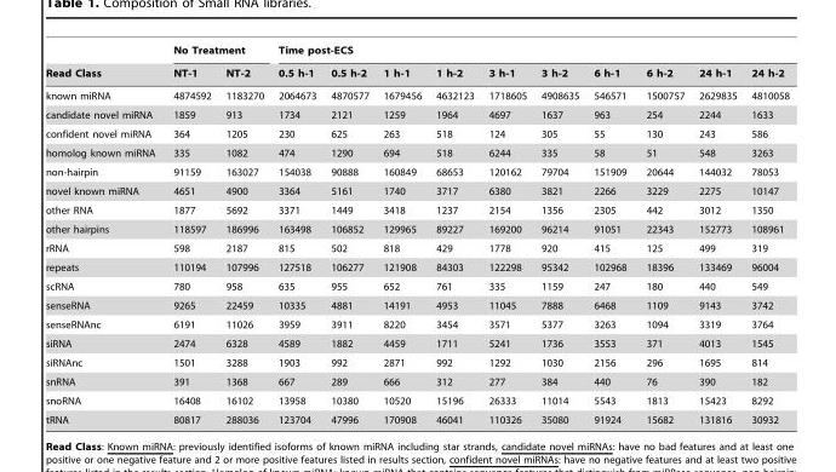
<table><thead><tr><td rowspan="2">Read Class</td><td colspan="2">No Treatment</td><td colspan="10">Time post-ECS</td></tr><tr><td>NT-1</td><td>NT-2</td><td>0.5 h-1</td><td>0.5 h-2</td><td>1 h-1</td><td>1 h-2</td><td>3 h-1</td><td>3 h-2</td><td>6 h-1</td><td>6 h-2</td><td>24 h-1</td><td>24 h-2</td></tr></thead><tbody><tr><td>known miRNA</td><td>4874592</td><td>1183270</td><td>2064673</td><td>4870577</td><td>1679456</td><td>4632123</td><td>1718605</td><td>4908635</td><td>546571</td><td>1500757</td><td>2629835</td><td>4810058</td></tr><tr><td>candidate novel miRNA</td><td>1859</td><td>913</td><td>1734</td><td>2121</td><td>1259</td><td>1964</td><td>4697</td><td>1637</td><td>963</td><td>254</td><td>2244</td><td>1633</td></tr><tr><td>confident novel miRNA</td><td>364</td><td>1205</td><td>230</td><td>625</td><td>263</td><td>518</td><td>124</td><td>305</td><td>55</td><td>130</td><td>243</td><td>586</td></tr><tr><td>homolog known miRNA</td><td>335</td><td>1082</td><td>474</td><td>1290</td><td>694</td><td>518</td><td>6244</td><td>335</td><td>58</td><td>51</td><td>548</td><td>3263</td></tr><tr><td>non-hairpin</td><td>91159</td><td>163027</td><td>154038</td><td>90888</td><td>160849</td><td>68653</td><td>120162</td><td>79704</td><td>151909</td><td>20644</td><td>144032</td><td>78053</td></tr><tr><td>novel known miRNA</td><td>4651</td><td>4900</td><td>3364</td><td>5161</td><td>1740</td><td>3717</td><td>6380</td><td>3821</td><td>2266</td><td>3229</td><td>2275</td><td>10147</td></tr><tr><td>other RNA</td><td>1877</td><td>5692</td><td>3371</td><td>1449</td><td>3418</td><td>1237</td><td>2154</td><td>1356</td><td>2305</td><td>442</td><td>3012</td><td>1350</td></tr><tr><td>other hairpins</td><td>118597</td><td>186996</td><td>163498</td><td>106852</td><td>129965</td><td>89227</td><td>169200</td><td>96214</td><td>91051</td><td>22343</td><td>152773</td><td>108961</td></tr><tr><td>rRNA</td><td>598</td><td>2187</td><td>815</td><td>502</td><td>818</td><td>429</td><td>1778</td><td>920</td><td>415</td><td>125</td><td>499</td><td>319</td></tr><tr><td>repeats</td><td>110194</td><td>107996</td><td>127518</td><td>106277</td><td>121908</td><td>84303</td><td>122298</td><td>95342</td><td>102968</td><td>18396</td><td>133469</td><td>96004</td></tr><tr><td>scRNA</td><td>780</td><td>958</td><td>635</td><td>955</td><td>652</td><td>761</td><td>335</td><td>1159</td><td>247</td><td>180</td><td>440</td><td>549</td></tr><tr><td>senseRNA</td><td>9265</td><td>22459</td><td>10335</td><td>4881</td><td>14191</td><td>4953</td><td>11045</td><td>7888</td><td>6468</td><td>1109</td><td>9143</td><td>3742</td></tr><tr><td>senseRNAnc</td><td>6191</td><td>11026</td><td>3959</td><td>3911</td><td>8220</td><td>3454</td><td>3571</td><td>5377</td><td>3263</td><td>1094</td><td>3319</td><td>3764</td></tr><tr><td>siRNA</td><td>2474</td><td>6328</td><td>4589</td><td>1882</td><td>4459</td><td>1711</td><td>5241</td><td>1736</td><td>3553</td><td>371</td><td>4013</td><td>1545</td></tr><tr><td>siRNAnc</td><td>1501</td><td>3288</td><td>1903</td><td>992</td><td>2871</td><td>992</td><td>1292</td><td>1030</td><td>2156</td><td>296</td><td>1695</td><td>814</td></tr><tr><td>snRNA</td><td>391</td><td>1368</td><td>667</td><td>289</td><td>666</td><td>312</td><td>277</td><td>384</td><td>440</td><td>76</td><td>390</td><td>182</td></tr><tr><td>snoRNA</td><td>16408</td><td>16102</td><td>13958</td><td>10380</td><td>10520</td><td>15196</td><td>26333</td><td>11014</td><td>5543</td><td>1813</td><td>15423</td><td>8292</td></tr><tr><td>tRNA</td><td>80817</td><td>288036</td><td>123704</td><td>47996</td><td>170908</td><td>46041</td><td>110326</td><td>35080</td><td>91924</td><td>15682</td><td>131816</td><td>30932</td></tr></tbody></table>